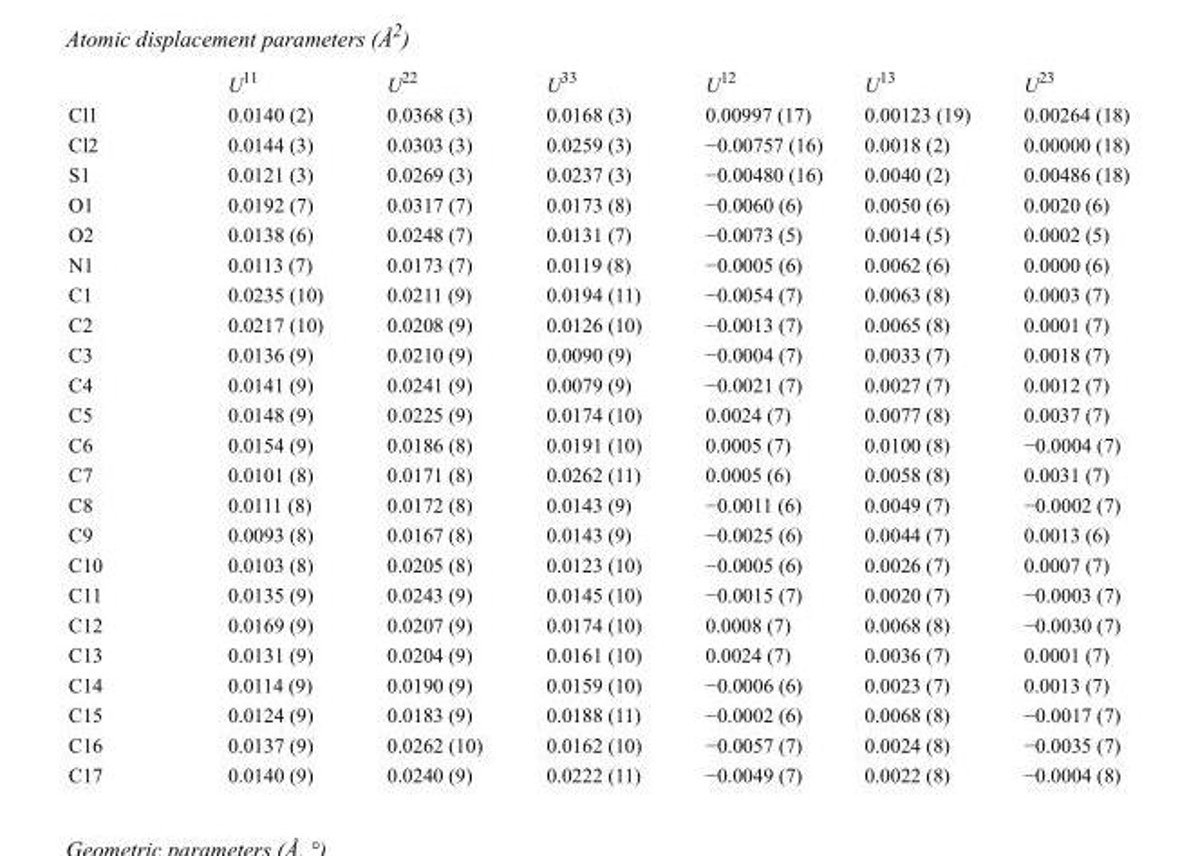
<table><thead><tr><td></td><td>U<sup>11</sup></td><td>U<sup>22</sup></td><td>U<sup>33</sup></td><td>U<sup>12</sup></td><td>U<sup>13</sup></td><td>U<sup>23</sup></td></tr></thead><tbody><tr><td>Cl1</td><td>0.0140 (2)</td><td>0.0368 (3)</td><td>0.0168 (3)</td><td>0.00997 (17)</td><td>0.00123 (19)</td><td>0.00264 (18)</td></tr><tr><td>Cl2</td><td>0.0144 (3)</td><td>0.0303 (3)</td><td>0.0259 (3)</td><td>−0.00757 (16)</td><td>0.0018 (2)</td><td>0.00000 (18)</td></tr><tr><td>S1</td><td>0.0121 (3)</td><td>0.0269 (3)</td><td>0.0237 (3)</td><td>−0.00480 (16)</td><td>0.0040 (2)</td><td>0.00486 (18)</td></tr><tr><td>O1</td><td>0.0192 (7)</td><td>0.0317 (7)</td><td>0.0173 (8)</td><td>−0.0060 (6)</td><td>0.0050 (6)</td><td>0.0020 (6)</td></tr><tr><td>O2</td><td>0.0138 (6)</td><td>0.0248 (7)</td><td>0.0131 (7)</td><td>−0.0073 (5)</td><td>0.0014 (5)</td><td>0.0002 (5)</td></tr><tr><td>N1</td><td>0.0113 (7)</td><td>0.0173 (7)</td><td>0.0119 (8)</td><td>−0.0005 (6)</td><td>0.0062 (6)</td><td>0.0000 (6)</td></tr><tr><td>C1</td><td>0.0235 (10)</td><td>0.0211 (9)</td><td>0.0194 (11)</td><td>−0.0054 (7)</td><td>0.0063 (8)</td><td>0.0003 (7)</td></tr><tr><td>C2</td><td>0.0217 (10)</td><td>0.0208 (9)</td><td>0.0126 (10)</td><td>−0.0013 (7)</td><td>0.0065 (8)</td><td>0.0001 (7)</td></tr><tr><td>C3</td><td>0.0136 (9)</td><td>0.0210 (9)</td><td>0.0090 (9)</td><td>−0.0004 (7)</td><td>0.0033 (7)</td><td>0.0018 (7)</td></tr><tr><td>C4</td><td>0.0141 (9)</td><td>0.0241 (9)</td><td>0.0079 (9)</td><td>−0.0021 (7)</td><td>0.0027 (7)</td><td>0.0012 (7)</td></tr><tr><td>C5</td><td>0.0148 (9)</td><td>0.0225 (9)</td><td>0.0174 (10)</td><td>0.0024 (7)</td><td>0.0077 (8)</td><td>0.0037 (7)</td></tr><tr><td>C6</td><td>0.0154 (9)</td><td>0.0186 (8)</td><td>0.0191 (10)</td><td>0.0005 (7)</td><td>0.0100 (8)</td><td>−0.0004 (7)</td></tr><tr><td>C7</td><td>0.0101 (8)</td><td>0.0171 (8)</td><td>0.0262 (11)</td><td>0.0005 (6)</td><td>0.0058 (8)</td><td>0.0031 (7)</td></tr><tr><td>C8</td><td>0.0111 (8)</td><td>0.0172 (8)</td><td>0.0143 (9)</td><td>−0.0011 (6)</td><td>0.0049 (7)</td><td>−0.0002 (7)</td></tr><tr><td>C9</td><td>0.0093 (8)</td><td>0.0167 (8)</td><td>0.0143 (9)</td><td>−0.0025 (6)</td><td>0.0044 (7)</td><td>0.0013 (6)</td></tr><tr><td>C10</td><td>0.0103 (8)</td><td>0.0205 (8)</td><td>0.0123 (10)</td><td>−0.0005 (6)</td><td>0.0026 (7)</td><td>0.0007 (7)</td></tr><tr><td>C11</td><td>0.0135 (9)</td><td>0.0243 (9)</td><td>0.0145 (10)</td><td>−0.0015 (7)</td><td>0.0020 (7)</td><td>−0.0003 (7)</td></tr><tr><td>C12</td><td>0.0169 (9)</td><td>0.0207 (9)</td><td>0.0174 (10)</td><td>0.0008 (7)</td><td>0.0068 (8)</td><td>−0.0030 (7)</td></tr><tr><td>C13</td><td>0.0131 (9)</td><td>0.0204 (9)</td><td>0.0161 (10)</td><td>0.0024 (7)</td><td>0.0036 (7)</td><td>0.0001 (7)</td></tr><tr><td>C14</td><td>0.0114 (9)</td><td>0.0190 (9)</td><td>0.0159 (10)</td><td>−0.0006 (6)</td><td>0.0023 (7)</td><td>0.0013 (7)</td></tr><tr><td>C15</td><td>0.0124 (9)</td><td>0.0183 (9)</td><td>0.0188 (11)</td><td>−0.0002 (6)</td><td>0.0068 (8)</td><td>−0.0017 (7)</td></tr><tr><td>C16</td><td>0.0137 (9)</td><td>0.0262 (10)</td><td>0.0162 (10)</td><td>−0.0057 (7)</td><td>0.0024 (8)</td><td>−0.0035 (7)</td></tr><tr><td>C17</td><td>0.0140 (9)</td><td>0.0240 (9)</td><td>0.0222 (11)</td><td>−0.0049 (7)</td><td>0.0022 (8)</td><td>−0.0004 (8)</td></tr></tbody></table>